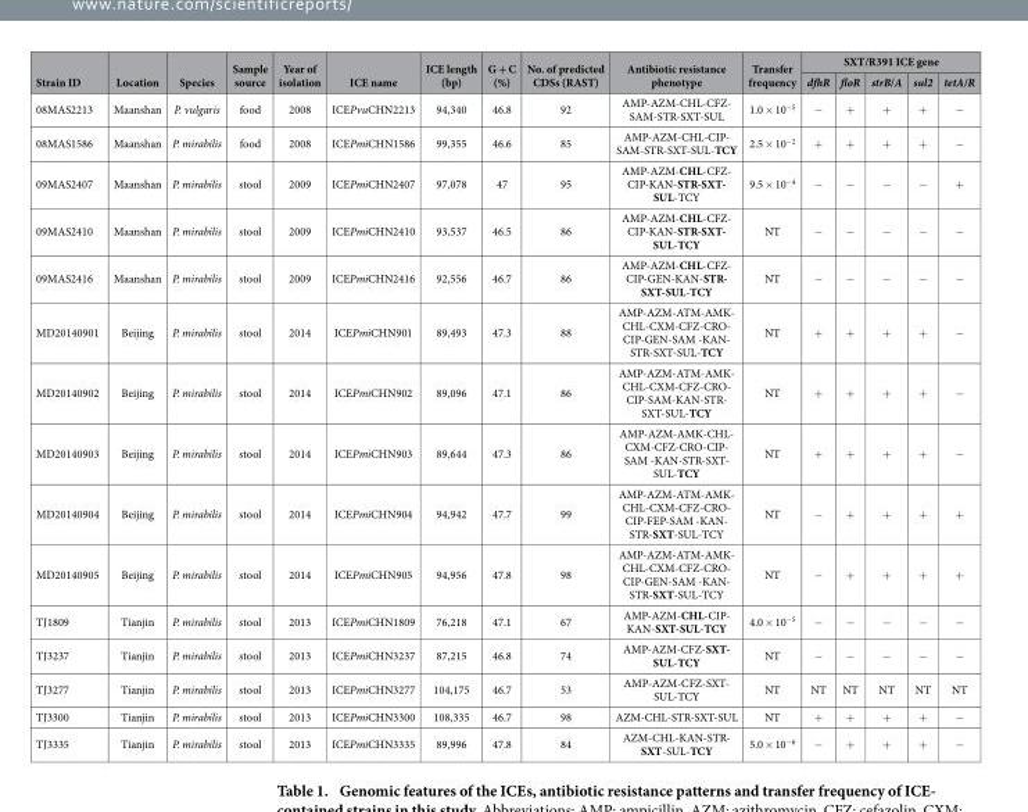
<table><thead><tr><td rowspan="2">Strain ID</td><td rowspan="2">Location</td><td rowspan="2">Species</td><td rowspan="2">Sample source</td><td rowspan="2">Year of isolation</td><td rowspan="2">ICE name</td><td rowspan="2">ICE length (bp)</td><td rowspan="2">G + C (%)</td><td rowspan="2">No. of predicted CDSs (RAST)</td><td rowspan="2">Antibiotic resistance phenotype</td><td rowspan="2">Transfer frequency</td><td colspan="5">SXT/R391 ICE gene</td></tr><tr><td>dfhR</td><td>floR</td><td>strB/A</td><td>sul2</td><td>tetA/R</td></tr></thead><tbody><tr><td>08MAS2213</td><td>Maanshan</td><td>P. vulgaris</td><td>food</td><td>2008</td><td>ICEPvuCHN2213</td><td>94,340</td><td>46.8</td><td>92</td><td>AMP-AZM-CHL-CFZ- SAM-STR-SXT-SUL</td><td>1.0 × 10<sup>−5</sup></td><td>−</td><td>+</td><td>+</td><td>+</td><td>−</td></tr><tr><td>08MAS1586</td><td>Maanshan</td><td>P. mirabilis</td><td>food</td><td>2008</td><td>ICEPmiCHN1586</td><td>99,355</td><td>46.6</td><td>85</td><td>AMP-AZM-CHL-CIP- SAM-STR-SXT-SUL-TCY</td><td>2.5 × 10<sup>−2</sup></td><td>+</td><td>+</td><td>+</td><td>+</td><td>−</td></tr><tr><td>09MAS2407</td><td>Maanshan</td><td>P. mirabilis</td><td>stool</td><td>2009</td><td>ICEPmiCHN2407</td><td>97,078</td><td>47</td><td>95</td><td>AMP-AZM-CHL-CFZ- CIP-KAN-STR-SXT- SUL-TCY</td><td>9.5 × 10<sup>−4</sup></td><td>−</td><td>−</td><td>−</td><td>−</td><td>+</td></tr><tr><td>09MAS2410</td><td>Maanshan</td><td>P. mirabilis</td><td>stool</td><td>2009</td><td>ICEPmiCHN2410</td><td>93,537</td><td>46.5</td><td>86</td><td>AMP-AZM-CHL-CFZ- CIP-KAN-STR-SXT- SUL-TCY</td><td>NT</td><td>−</td><td>−</td><td>−</td><td>−</td><td>−</td></tr><tr><td>09MAS2416</td><td>Maanshan</td><td>P. mirabilis</td><td>stool</td><td>2009</td><td>ICEPmiCHN2416</td><td>92,556</td><td>46.7</td><td>86</td><td>AMP-AZM-CHL-CFZ- CIP-GEN-KAN-STR- SXT-SUL-TCY</td><td>NT</td><td>−</td><td>−</td><td>−</td><td>−</td><td>−</td></tr><tr><td>MD20140901</td><td>Beijing</td><td>P. mirabilis</td><td>stool</td><td>2014</td><td>ICEPmiCHN901</td><td>89,493</td><td>47.3</td><td>88</td><td>AMP-AZM-ATM-AMK- CHL-CXM-CFZ-CRO- CIP-GEN-SAM -KAN- STR-SXT-SUL-TCY</td><td>NT</td><td>+</td><td>+</td><td>+</td><td>+</td><td>−</td></tr><tr><td>MD20140902</td><td>Beijing</td><td>P. mirabilis</td><td>stool</td><td>2014</td><td>ICEPmiCHN902</td><td>89,096</td><td>47.1</td><td>86</td><td>AMP-AZM-ATM-AMK- CHL-CXM-CFZ-CRO- CIP-SAM-KAN-STR- SXT-SUL-TCY</td><td>NT</td><td>+</td><td>+</td><td>+</td><td>+</td><td>−</td></tr><tr><td>MD20140903</td><td>Beijing</td><td>P. mirabilis</td><td>stool</td><td>2014</td><td>ICEPmiCHN903</td><td>89,644</td><td>47.3</td><td>86</td><td>AMP-AZM-AMK-CHL- CXM-CFZ-CRO-CIP- SAM -KAN-STR-SXT- SUL-TCY</td><td>NT</td><td>+</td><td>+</td><td>+</td><td>+</td><td>−</td></tr><tr><td>MD20140904</td><td>Beijing</td><td>P. mirabilis</td><td>stool</td><td>2014</td><td>ICEPmiCHN904</td><td>94,942</td><td>47.7</td><td>99</td><td>AMP-AZM-ATM-AMK- CHL-CXM-CFZ-CRO- CIP-FEP-SAM -KAN- STR-SXT-SUL-TCY</td><td>NT</td><td>−</td><td>+</td><td>+</td><td>+</td><td>+</td></tr><tr><td>MD20140905</td><td>Beijing</td><td>P. mirabilis</td><td>stool</td><td>2014</td><td>ICEPmiCHN905</td><td>94,956</td><td>47.8</td><td>98</td><td>AMP-AZM-ATM-AMK- CHL-CXM-CFZ-CRO- CIP-GEN-SAM -KAN- STR-SXT-SUL-TCY</td><td>NT</td><td>−</td><td>+</td><td>+</td><td>+</td><td>+</td></tr><tr><td>TJ1809</td><td>Tianjin</td><td>P. mirabilis</td><td>stool</td><td>2013</td><td>ICEPmiCHN1809</td><td>76,218</td><td>47.1</td><td>67</td><td>AMP-AZM-CHL-CIP- KAN-SXT-SUL-TCY</td><td>4.0 × 10<sup>−5</sup></td><td>−</td><td>−</td><td>−</td><td>−</td><td>−</td></tr><tr><td>TJ3237</td><td>Tianjin</td><td>P. mirabilis</td><td>stool</td><td>2013</td><td>ICEPmiCHN3237</td><td>87,215</td><td>46.8</td><td>74</td><td>AMP-AZM-CFZ-SXT- SUL-TCY</td><td>NT</td><td>−</td><td>−</td><td>−</td><td>−</td><td>−</td></tr><tr><td>TJ3277</td><td>Tianjin</td><td>P. mirabilis</td><td>stool</td><td>2013</td><td>ICEPmiCHN3277</td><td>104,175</td><td>46.7</td><td>53</td><td>AMP-AZM-CFZ-SXT- SUL-TCY</td><td>NT</td><td>NT</td><td>NT</td><td>NT</td><td>NT</td><td>NT</td></tr><tr><td>TJ3300</td><td>Tianjin</td><td>P. mirabilis</td><td>stool</td><td>2013</td><td>ICEPmiCHN3300</td><td>108,335</td><td>46.7</td><td>98</td><td>AZM-CHL-STR-SXT-SUL</td><td>NT</td><td>+</td><td>+</td><td>+</td><td>+</td><td>−</td></tr><tr><td>TJ3335</td><td>Tianjin</td><td>P. mirabilis</td><td>stool</td><td>2013</td><td>ICEPmiCHN3335</td><td>89,996</td><td>47.8</td><td>84</td><td>AZM-CHL-KAN-STR- SXT-SUL-TCY</td><td>5.0 × 10<sup>−6</sup></td><td>−</td><td>+</td><td>+</td><td>+</td><td>−</td></tr></tbody></table>